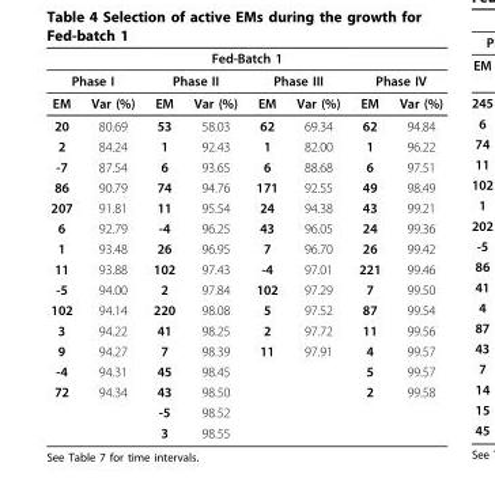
<table><thead><tr><td colspan="8">Fed-Batch 1</td></tr><tr><td colspan="2">Phase I</td><td colspan="2">Phase II</td><td colspan="2">Phase III</td><td colspan="2">Phase IV</td></tr><tr><td>EM</td><td>Var (%)</td><td>EM</td><td>Var (%)</td><td>EM</td><td>Var (%)</td><td>EM</td><td>Var (%)</td></tr></thead><tbody><tr><td>20</td><td>80.69</td><td>53</td><td>58.03</td><td>62</td><td>69.34</td><td>62</td><td>94.84</td></tr><tr><td>2</td><td>84.24</td><td>1</td><td>92.43</td><td>1</td><td>82.00</td><td>1</td><td>96.22</td></tr><tr><td>-7</td><td>87.54</td><td>6</td><td>93.65</td><td>6</td><td>88.68</td><td>6</td><td>97.51</td></tr><tr><td>86</td><td>90.79</td><td>74</td><td>94.76</td><td>171</td><td>92.55</td><td>49</td><td>98.49</td></tr><tr><td>207</td><td>91.81</td><td>11</td><td>95.54</td><td>24</td><td>94.38</td><td>43</td><td>99.21</td></tr><tr><td>6</td><td>92.79</td><td>-4</td><td>96.25</td><td>43</td><td>96.05</td><td>24</td><td>99.36</td></tr><tr><td>1</td><td>93.48</td><td>26</td><td>96.95</td><td>7</td><td>96.70</td><td>26</td><td>99.42</td></tr><tr><td>11</td><td>93.88</td><td>102</td><td>97.43</td><td>-4</td><td>97.01</td><td>221</td><td>99.46</td></tr><tr><td>-5</td><td>94.00</td><td>2</td><td>97.84</td><td>102</td><td>97.29</td><td>7</td><td>99.50</td></tr><tr><td>102</td><td>94.14</td><td>220</td><td>98.08</td><td>5</td><td>97.52</td><td>87</td><td>99.54</td></tr><tr><td>3</td><td>94.22</td><td>41</td><td>98.25</td><td>2</td><td>97.72</td><td>11</td><td>99.56</td></tr><tr><td>9</td><td>94.27</td><td>7</td><td>98.39</td><td>11</td><td>97.91</td><td>4</td><td>99.57</td></tr><tr><td>-4</td><td>94.31</td><td>45</td><td>98.45</td><td></td><td></td><td>5</td><td>99.57</td></tr><tr><td rowspan="3">72</td><td>94.34</td><td>43</td><td>98.50</td><td></td><td></td><td>2</td><td>99.58</td></tr><tr><td></td><td>-5</td><td>98.52</td><td></td><td></td><td></td><td></td></tr><tr><td></td><td>3</td><td>98.55</td><td></td><td></td><td></td><td></td></tr></tbody></table>